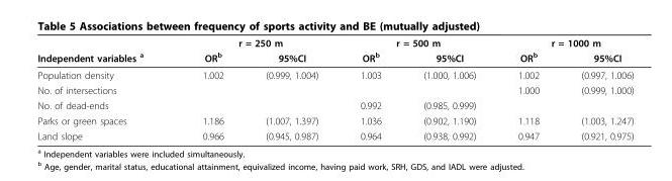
<table><thead><tr><td rowspan="2">Independent variables <sup>a</sup></td><td colspan="2">r = 250 m</td><td colspan="2">r = 500 m</td><td colspan="2">r = 1000 m</td></tr><tr><td>OR<sup>b</sup></td><td>95%CI</td><td>OR<sup>b</sup></td><td>95%CI</td><td>OR<sup>b</sup></td><td>95%CI</td></tr></thead><tbody><tr><td>Population density</td><td>1.002</td><td>(0.999, 1.004)</td><td>1.003</td><td>(1.000, 1.006)</td><td>1.002</td><td>(0.997, 1.006)</td></tr><tr><td>No. of intersections</td><td></td><td></td><td></td><td></td><td>1.000</td><td>(0.999, 1.000)</td></tr><tr><td>No. of dead-ends</td><td></td><td></td><td>0.992</td><td>(0.985, 0.999)</td><td></td><td></td></tr><tr><td>Parks or green spaces</td><td>1.186</td><td>(1.007, 1.397)</td><td>1.036</td><td>(0.902, 1.190)</td><td>1.118</td><td>(1.003, 1.247)</td></tr><tr><td>Land slope</td><td>0.966</td><td>(0.945, 0.987)</td><td>0.964</td><td>(0.938, 0.992)</td><td>0.947</td><td>(0.921, 0.975)</td></tr></tbody></table>